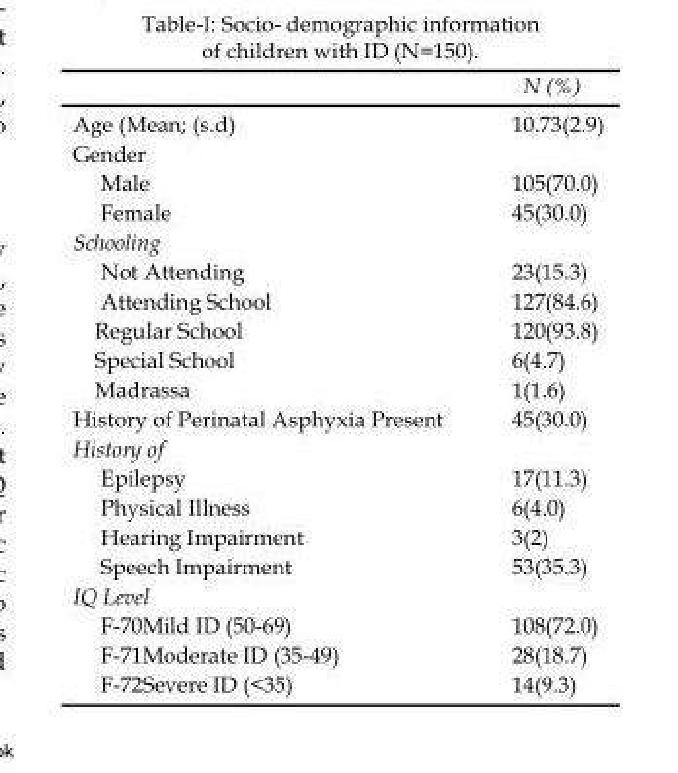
<table><thead><tr><td></td><td>N (%)</td></tr></thead><tbody><tr><td>Age (Mean; (s.d)</td><td>10.73(2.9)</td></tr><tr><td colspan="2">Gender</td></tr><tr><td>Male</td><td>105(70.0)</td></tr><tr><td>Female</td><td>45(30.0)</td></tr><tr><td colspan="2">Schooling</td></tr><tr><td>Not Attending</td><td>23(15.3)</td></tr><tr><td>Attending School</td><td>127(84.6)</td></tr><tr><td>Regular School</td><td>120(93.8)</td></tr><tr><td>Special School</td><td>6(4.7)</td></tr><tr><td>Madrassa</td><td>1(1.6)</td></tr><tr><td>History of Perinatal Asphyxia Present</td><td>45(30.0)</td></tr><tr><td colspan="2">History of</td></tr><tr><td>Epilepsy</td><td>17(11.3)</td></tr><tr><td>Physical Illness</td><td>6(4.0)</td></tr><tr><td>Hearing Impairment</td><td>3(2)</td></tr><tr><td>Speech Impairment</td><td>53(35.3)</td></tr><tr><td colspan="2">IQ Level</td></tr><tr><td>F-70Mild ID (50-69)</td><td>108(72.0)</td></tr><tr><td>F-71Moderate ID (35-49)</td><td>28(18.7)</td></tr><tr><td>F-72Severe ID (&lt;35)</td><td>14(9.3)</td></tr></tbody></table>